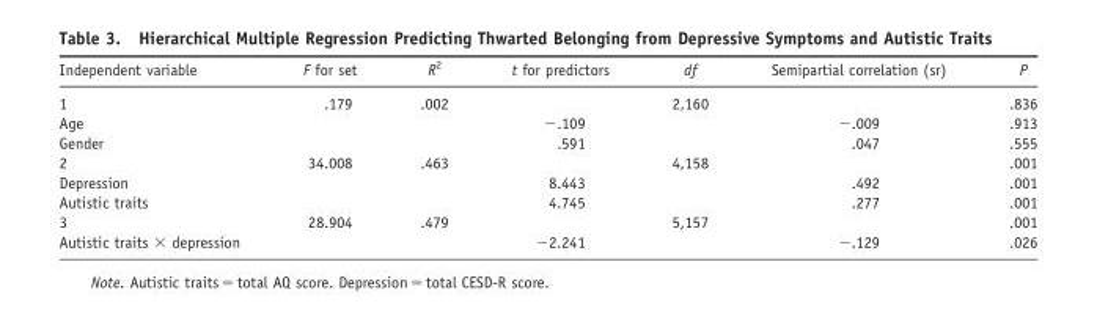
<table><thead><tr><td>Independent variable</td><td>F for set</td><td>R<sup>2</sup></td><td>t for predictors</td><td>df</td><td>Semipartial correlation (sr)</td><td>P</td></tr></thead><tbody><tr><td>1</td><td>.179</td><td>.002</td><td></td><td>2,160</td><td></td><td>.836</td></tr><tr><td>Age</td><td></td><td></td><td>−.109</td><td></td><td>−.009</td><td>.913</td></tr><tr><td>Gender</td><td></td><td></td><td>.591</td><td></td><td>.047</td><td>.555</td></tr><tr><td>2</td><td>34.008</td><td>.463</td><td></td><td>4,158</td><td></td><td>.001</td></tr><tr><td>Depression</td><td></td><td></td><td>8.443</td><td></td><td>.492</td><td>.001</td></tr><tr><td>Autistic traits</td><td></td><td></td><td>4.745</td><td></td><td>.277</td><td>.001</td></tr><tr><td>3</td><td>28.904</td><td>.479</td><td></td><td>5,157</td><td></td><td>.001</td></tr><tr><td>Autistic traits × depression</td><td></td><td></td><td>−2.241</td><td></td><td>−.129</td><td>.026</td></tr></tbody></table>